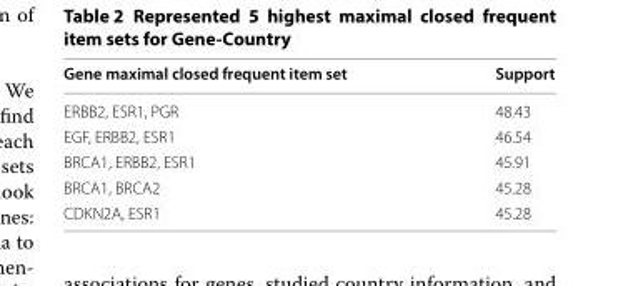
<table><thead><tr><td>Gene maximal closed frequent item set</td><td>Support</td></tr></thead><tbody><tr><td>ERBB2, ESR1, PGR</td><td>48.43</td></tr><tr><td>EGF, ERBB2, ESR1</td><td>46.54</td></tr><tr><td>BRCA1, ERBB2, ESR1</td><td>45.91</td></tr><tr><td>BRCA1, BRCA2</td><td>45.28</td></tr><tr><td>CDKN2A, ESR1</td><td>45.28</td></tr></tbody></table>